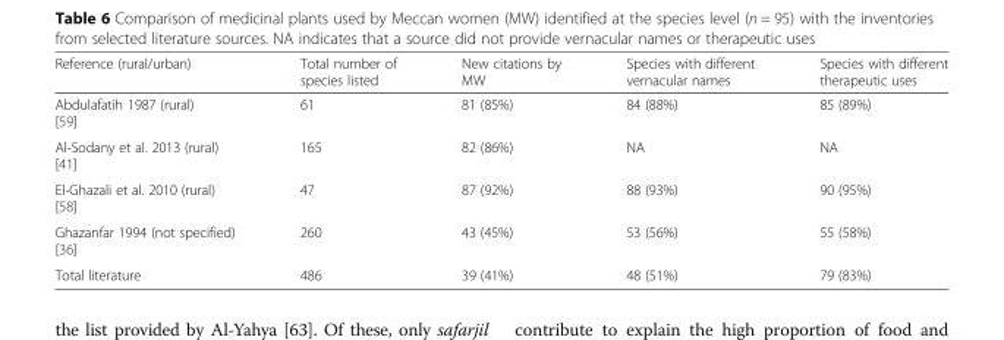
<table><thead><tr><td>Reference (rural/urban)</td><td>Total number of species listed</td><td>New citations by MW</td><td>Species with different vernacular names</td><td>Species with different therapeutic uses</td></tr></thead><tbody><tr><td>Abdulafatih 1987 (rural) [59]</td><td>61</td><td>81 (85%)</td><td>84 (88%)</td><td>85 (89%)</td></tr><tr><td>Al-Sodany et al. 2013 (rural) [41]</td><td>165</td><td>82 (86%)</td><td>NA</td><td>NA</td></tr><tr><td>El-Ghazali et al. 2010 (rural) [58]</td><td>47</td><td>87 (92%)</td><td>88 (93%)</td><td>90 (95%)</td></tr><tr><td>Ghazanfar 1994 (not specified) [36]</td><td>260</td><td>43 (45%)</td><td>53 (56%)</td><td>55 (58%)</td></tr><tr><td>Total literature</td><td>486</td><td>39 (41%)</td><td>48 (51%)</td><td>79 (83%)</td></tr></tbody></table>